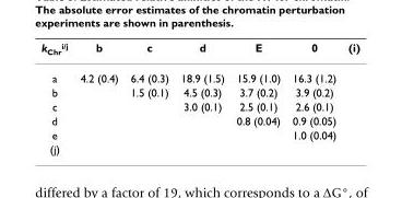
<table><thead><tr><td>kChri/j</td><td>b</td><td>c</td><td>d</td><td>E</td><td>0</td><td>(i)</td></tr></thead><tbody><tr><td>a</td><td>4.2 (0.4)</td><td>6.4 (0.3)</td><td>18.9 (1.5)</td><td>15.9 (1.0)</td><td>16.3 (1.2)</td><td></td></tr><tr><td>b</td><td></td><td>1.5 (0.1)</td><td>4.5 (0.3)</td><td>3.7 (0.2)</td><td>3.9 (0.2)</td><td></td></tr><tr><td>c</td><td></td><td></td><td>3.0 (0.1)</td><td>2.5 (0.1)</td><td>2.6 (0.1)</td><td></td></tr><tr><td>d</td><td></td><td></td><td></td><td>0.8 (0.04)</td><td>0.9 (0.05)</td><td></td></tr><tr><td>e</td><td></td><td></td><td></td><td></td><td>1.0 (0.04)</td><td></td></tr><tr><td>(j)</td><td></td><td></td><td></td><td></td><td></td><td></td></tr></tbody></table>